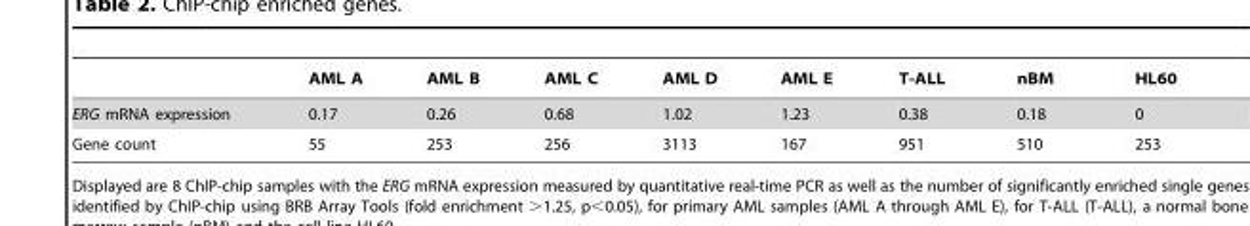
<table><thead><tr><td></td><td>AML A</td><td>AML B</td><td>AML C</td><td>AML D</td><td>AML E</td><td>T-ALL</td><td>nBM</td><td>HL60</td></tr></thead><tbody><tr><td>ERG mRNA expression</td><td>0.17</td><td>0.26</td><td>0.68</td><td>1.02</td><td>1.23</td><td>0.38</td><td>0.18</td><td>0</td></tr><tr><td>Gene count</td><td>55</td><td>253</td><td>256</td><td>3113</td><td>167</td><td>951</td><td>510</td><td>253</td></tr></tbody></table>